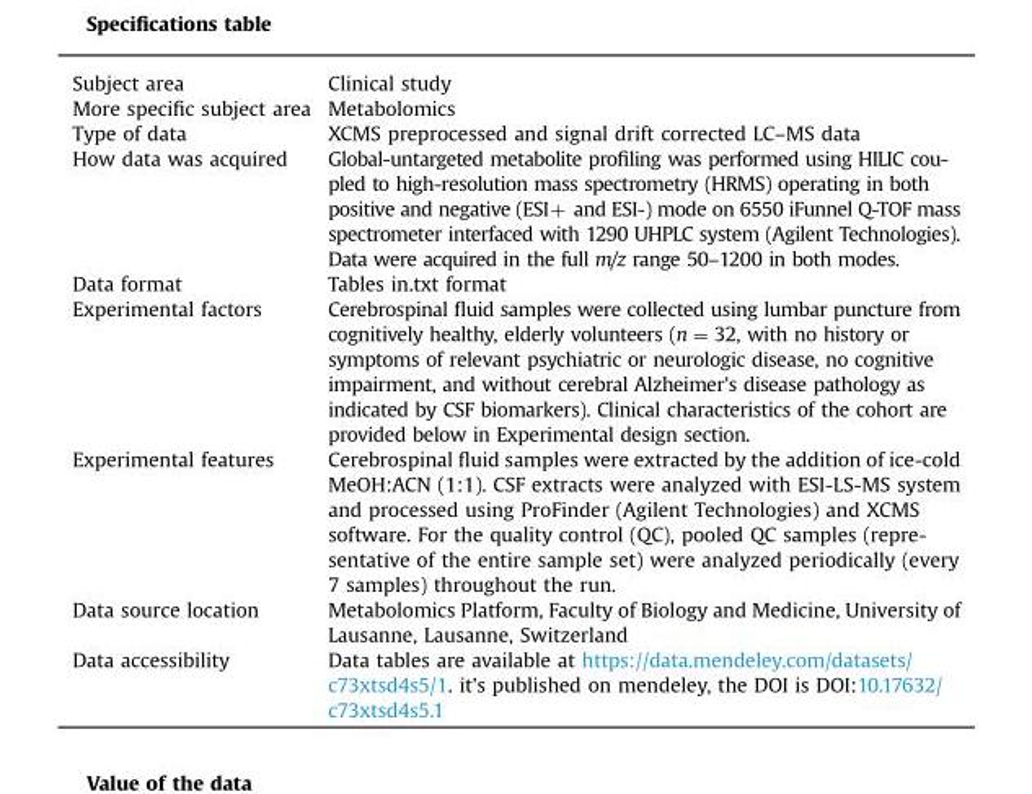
<table><tbody><tr><td>Subject area</td><td>Clinical study</td></tr><tr><td>More specific subject area</td><td>Metabolomics</td></tr><tr><td>Type of data</td><td>XCMS preprocessed and signal drift corrected LC–MS data</td></tr><tr><td>How data was acquired</td><td>Global-untargeted metabolite profiling was performed using HILIC cou- pled to high-resolution mass spectrometry (HRMS) operating in both positive and negative (ESIþ and ESI-) mode on 6550 iFunnel Q-TOF mass spectrometer interfaced with 1290 UHPLC system (Agilent Technologies). Data were acquired in the full m/z range 50–1200 in both modes.</td></tr><tr><td>Data format</td><td>Tables in.txt format</td></tr><tr><td>Experimental factors</td><td>Cerebrospinal fluid samples were collected using lumbar puncture from cognitively healthy, elderly volunteers (n = 32, with no history or symptoms of relevant psychiatric or neurologic disease, no cognitive impairment, and without cerebral Alzheimer&#x27;s disease pathology as indicated by CSF biomarkers). Clinical characteristics of the cohort are provided below in Experimental design section.</td></tr><tr><td>Experimental features</td><td>Cerebrospinal fluid samples were extracted by the addition of ice-cold MeOH:ACN (1:1). CSF extracts were analyzed with ESI-LS-MS system and processed using ProFinder (Agilent Technologies) and XCMS software. For the quality control (QC), pooled QC samples (repre- sentative of the entire sample set) were analyzed periodically (every 7 samples) throughout the run.</td></tr><tr><td>Data source location</td><td>Metabolomics Platform, Faculty of Biology and Medicine, University of Lausanne, Lausanne, Switzerland</td></tr><tr><td>Data accessibility</td><td>Data tables are available at https://data.mendeley.com/datasets/ c73xtsd4s5/1. it&#x27;s published on mendeley, the DOI is DOI:10.17632/ c73xtsd4s5.1</td></tr></tbody></table>